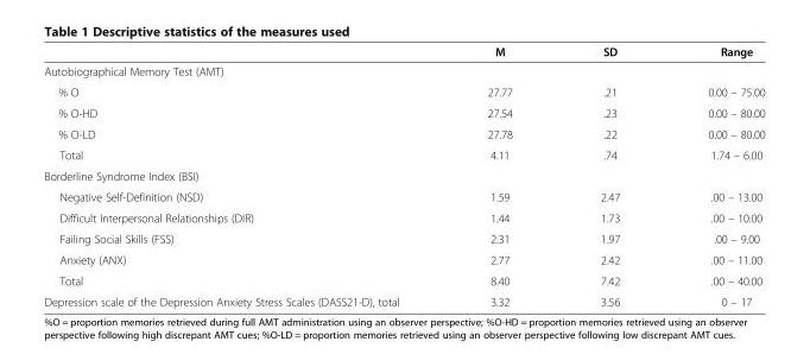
<table><thead><tr><td></td><td>M</td><td>SD</td><td>Range</td></tr></thead><tbody><tr><td colspan="4">Autobiographical Memory Test (AMT)</td></tr><tr><td>% O</td><td>27.77</td><td>.21</td><td>0.00 – 75.00</td></tr><tr><td>% O-HD</td><td>27.54</td><td>.23</td><td>0.00 – 80.00</td></tr><tr><td>% O-LD</td><td>27.78</td><td>.22</td><td>0.00 – 80.00</td></tr><tr><td>Total</td><td>4.11</td><td>.74</td><td>1.74 – 6.00</td></tr><tr><td colspan="4">Borderline Syndrome Index (BSI)</td></tr><tr><td>Negative Self-Definition (NSD)</td><td>1.59</td><td>2.47</td><td>.00 – 13.00</td></tr><tr><td>Difficult Interpersonal Relationships (DIR)</td><td>1.44</td><td>1.73</td><td>.00 – 10.00</td></tr><tr><td>Failing Social Skills (FSS)</td><td>2.31</td><td>1.97</td><td>.00 – 9.00</td></tr><tr><td>Anxiety (ANX)</td><td>2.77</td><td>2.42</td><td>.00 – 11.00</td></tr><tr><td>Total</td><td>8.40</td><td>7.42</td><td>.00 – 40.00</td></tr><tr><td>Depression scale of the Depression Anxiety Stress Scales (DASS21-D), total</td><td>3.32</td><td>3.56</td><td>0 – 17</td></tr></tbody></table>